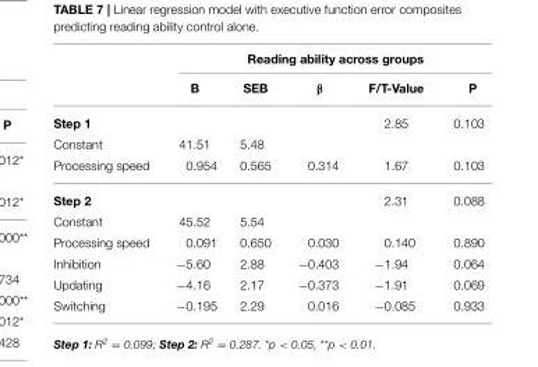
<table><thead><tr><td rowspan="2"></td><td colspan="5">Reading ability across groups</td></tr><tr><td>B</td><td>SEB</td><td>β</td><td>F/T-Value</td><td>P</td></tr></thead><tbody><tr><td>Step 1</td><td></td><td></td><td></td><td>2.85</td><td>0.103</td></tr><tr><td>Constant</td><td>41.51</td><td>5.48</td><td></td><td></td><td></td></tr><tr><td>Processing speed</td><td>0.954</td><td>0.565</td><td>0.314</td><td>1.67</td><td>0.103</td></tr><tr><td>Step 2</td><td></td><td></td><td></td><td>2.31</td><td>0.088</td></tr><tr><td>Constant</td><td>45.52</td><td>5.54</td><td></td><td></td><td></td></tr><tr><td>Processing speed</td><td>0.091</td><td>0.650</td><td>0.030</td><td>0.140</td><td>0.890</td></tr><tr><td>Inhibition</td><td>−5.60</td><td>2.88</td><td>−0.403</td><td>−1.94</td><td>0.064</td></tr><tr><td>Updating</td><td>−4.16</td><td>2.17</td><td>−0.373</td><td>−1.91</td><td>0.069</td></tr><tr><td>Switching</td><td>−0.195</td><td>2.29</td><td>0.016</td><td>−0.085</td><td>0.933</td></tr></tbody></table>